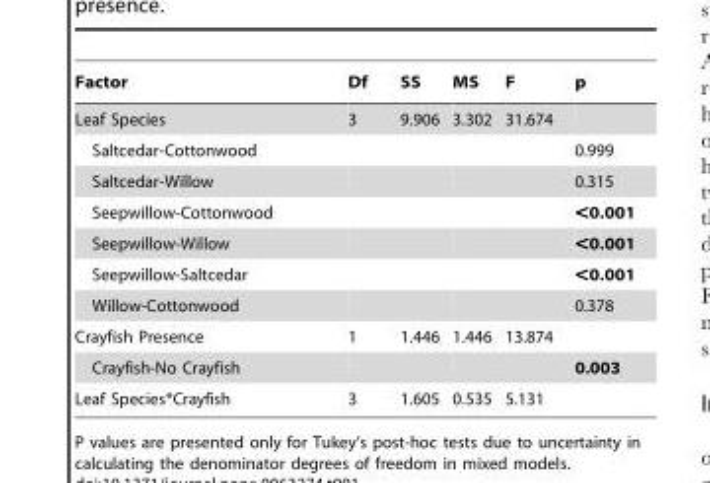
<table><thead><tr><td>Factor</td><td>Df</td><td>SS</td><td>MS</td><td>F</td><td>p</td></tr></thead><tbody><tr><td>Leaf Species</td><td>3</td><td>9.906</td><td>3.302</td><td>31.674</td><td></td></tr><tr><td>Saltcedar-Cottonwood</td><td></td><td></td><td></td><td></td><td>0.999</td></tr><tr><td>Saltcedar-Willow</td><td></td><td></td><td></td><td></td><td>0.315</td></tr><tr><td>Seepwillow-Cottonwood</td><td></td><td></td><td></td><td></td><td>&lt;0.001</td></tr><tr><td>Seepwillow-Willow</td><td></td><td></td><td></td><td></td><td>&lt;0.001</td></tr><tr><td>Seepwillow-Saltcedar</td><td></td><td></td><td></td><td></td><td>&lt;0.001</td></tr><tr><td>Willow-Cottonwood</td><td></td><td></td><td></td><td></td><td>0.378</td></tr><tr><td>Crayfish Presence</td><td>1</td><td>1.446</td><td>1.446</td><td>13.874</td><td></td></tr><tr><td>Crayfish-No Crayfish</td><td></td><td></td><td></td><td></td><td>0.003</td></tr><tr><td>Leaf Species*Crayfish</td><td>3</td><td>1.605</td><td>0.535</td><td>5.131</td><td></td></tr></tbody></table>